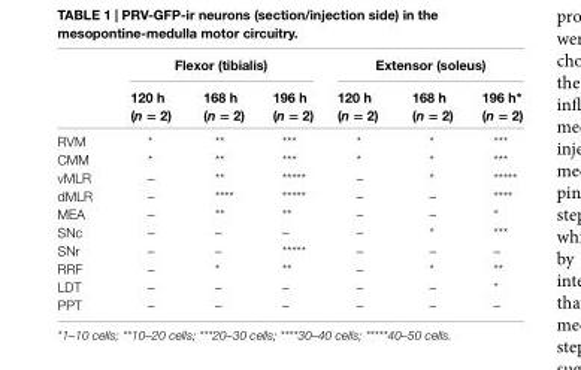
<table><thead><tr><td rowspan="2"></td><td colspan="3">Flexor (tibialis)</td><td colspan="3">extensor (soleus)</td></tr><tr><td>120 h (n = 2)</td><td>168 h (n = 2)</td><td>196 h (n = 2)</td><td>120 h (n = 2)</td><td>168 h (n = 2)</td><td>196 h* (n = 2)</td></tr></thead><tbody><tr><td>RVM</td><td>*</td><td>**</td><td>***</td><td>*</td><td>*</td><td>***</td></tr><tr><td>CMM</td><td>*</td><td>**</td><td>***</td><td>*</td><td>*</td><td>***</td></tr><tr><td>vMLR</td><td>–</td><td>**</td><td>*****</td><td>–</td><td>*</td><td>*****</td></tr><tr><td>dMLR</td><td>–</td><td>****</td><td>*****</td><td>–</td><td>–</td><td>****</td></tr><tr><td>MEA</td><td>–</td><td>**</td><td>**</td><td>–</td><td>–</td><td>*</td></tr><tr><td>SNc</td><td>–</td><td>–</td><td>–</td><td>–</td><td>*</td><td>***</td></tr><tr><td>SNr</td><td>–</td><td>–</td><td>*****</td><td>–</td><td>–</td><td>–</td></tr><tr><td>RRF</td><td>–</td><td>*</td><td>**</td><td>–</td><td>*</td><td>**</td></tr><tr><td>LDT</td><td>–</td><td>–</td><td>–</td><td>–</td><td>–</td><td>*</td></tr><tr><td>PPT</td><td>–</td><td>–</td><td>–</td><td>–</td><td>–</td><td>–</td></tr></tbody></table>